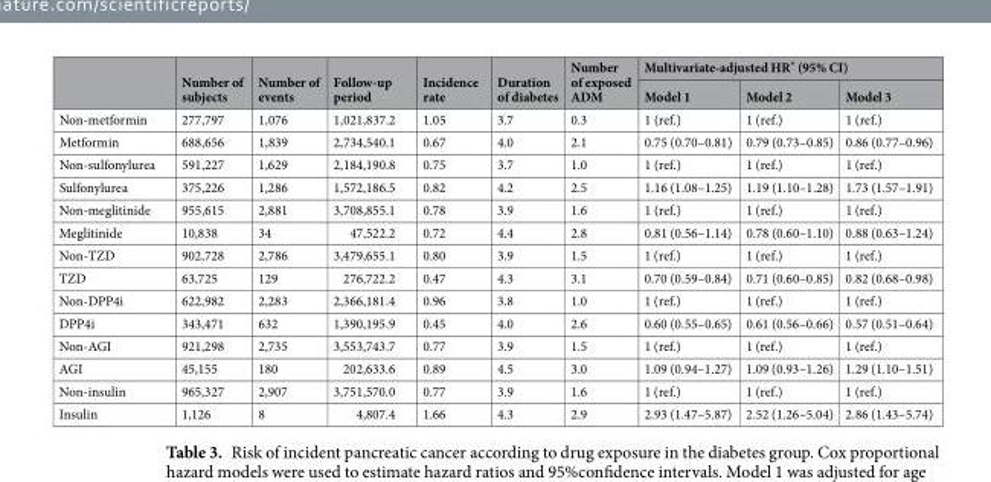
<table><thead><tr><td rowspan="2"></td><td rowspan="2">Number of subjects</td><td rowspan="2">Number of events</td><td rowspan="2">Follow-up period</td><td rowspan="2">Incidence rate</td><td rowspan="2">Duration of diabetes</td><td rowspan="2">Number of exposed ADM</td><td colspan="3">Multivariate-adjusted HR* (95% CI)</td></tr><tr><td>Model 1</td><td>Model 2</td><td>Model 3</td></tr></thead><tbody><tr><td>Non-metformin</td><td>277,797</td><td>1,076</td><td>1,021,837.2</td><td>1.05</td><td>3.7</td><td>0.3</td><td>1 (ref.)</td><td>1 (ref.)</td><td>1 (ref.)</td></tr><tr><td>Metformin</td><td>688,656</td><td>1,839</td><td>2,734,540.1</td><td>0.67</td><td>4.0</td><td>2.1</td><td>0.75 (0.70–0.81)</td><td>0.79 (0.73–0.85)</td><td>0.86 (0.77–0.96)</td></tr><tr><td>Non-sulfonylurea</td><td>591,227</td><td>1,629</td><td>2,184,190.8</td><td>0.75</td><td>3.7</td><td>1.0</td><td>1 (ref.)</td><td>1 (ref.)</td><td>1 (ref.)</td></tr><tr><td>Sulfonylurea</td><td>375,226</td><td>1,286</td><td>1,572,186.5</td><td>0.82</td><td>4.2</td><td>2.5</td><td>1.16 (1.08–1.25)</td><td>1.19 (1.10–1.28)</td><td>1.73 (1.57–1.91)</td></tr><tr><td>Non-meglitinide</td><td>955,615</td><td>2,881</td><td>3,708,855.1</td><td>0.78</td><td>3.9</td><td>1.6</td><td>1 (ref.)</td><td>1 (ref.)</td><td>1 (ref.)</td></tr><tr><td>Meglitinide</td><td>10,838</td><td>34</td><td>47,522.2</td><td>0.72</td><td>4.4</td><td>2.8</td><td>0.81 (0.56–1.14)</td><td>0.78 (0.60–1.10)</td><td>0.88 (0.63–1.24)</td></tr><tr><td>Non-TZD</td><td>902,728</td><td>2,786</td><td>3,479,655.1</td><td>0.80</td><td>3.9</td><td>1.5</td><td>1 (ref.)</td><td>1 (ref.)</td><td>1 (ref.)</td></tr><tr><td>TZD</td><td>63,725</td><td>129</td><td>276,722.2</td><td>0.47</td><td>4.3</td><td>3.1</td><td>0.70 (0.59–0.84)</td><td>0.71 (0.60–0.85)</td><td>0.82 (0.68–0.98)</td></tr><tr><td>Non-DPP4i</td><td>622,982</td><td>2,283</td><td>2,366,181.4</td><td>0.96</td><td>3.8</td><td>1.0</td><td>1 (ref.)</td><td>1 (ref.)</td><td>1 (ref.)</td></tr><tr><td>DPP4i</td><td>343,471</td><td>632</td><td>1,390,195.9</td><td>0.45</td><td>4.0</td><td>2.6</td><td>0.60 (0.55–0.65)</td><td>0.61 (0.56–0.66)</td><td>0.57 (0.51–0.64)</td></tr><tr><td>Non-AGI</td><td>921,298</td><td>2,735</td><td>3,553,743.7</td><td>0.77</td><td>3.9</td><td>1.5</td><td>1 (ref.)</td><td>1 (ref.)</td><td>1 (ref.)</td></tr><tr><td>AGI</td><td>45,155</td><td>180</td><td>202,633.6</td><td>0.89</td><td>4.5</td><td>3.0</td><td>1.09 (0.94–1.27)</td><td>1.09 (0.93–1.26)</td><td>1.29 (1.10–1.51)</td></tr><tr><td>Non-insulin</td><td>965,327</td><td>2,907</td><td>3,751,570.0</td><td>0.77</td><td>3.9</td><td>1.6</td><td>1 (ref.)</td><td>1 (ref.)</td><td>1 (ref.)</td></tr><tr><td>Insulin</td><td>1,126</td><td>8</td><td>4,807.4</td><td>1.66</td><td>4.3</td><td>2.9</td><td>2.93 (1.47–5.87)</td><td>2.52 (1.26–5.04)</td><td>2.86 (1.43–5.74)</td></tr></tbody></table>